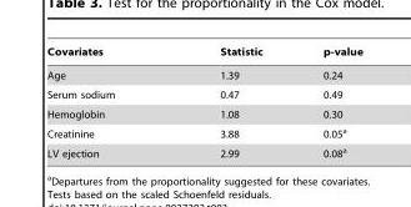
<table><thead><tr><td>Covariates</td><td>Statistic</td><td>p-value</td></tr></thead><tbody><tr><td>Age</td><td>1.39</td><td>0.24</td></tr><tr><td>Serum sodium</td><td>0.47</td><td>0.49</td></tr><tr><td>Hemoglobin</td><td>1.08</td><td>0.30</td></tr><tr><td>Creatinine</td><td>3.88</td><td>0.05<sup>a</sup></td></tr><tr><td>LV ejection</td><td>2.99</td><td>0.08<sup>a</sup></td></tr></tbody></table>